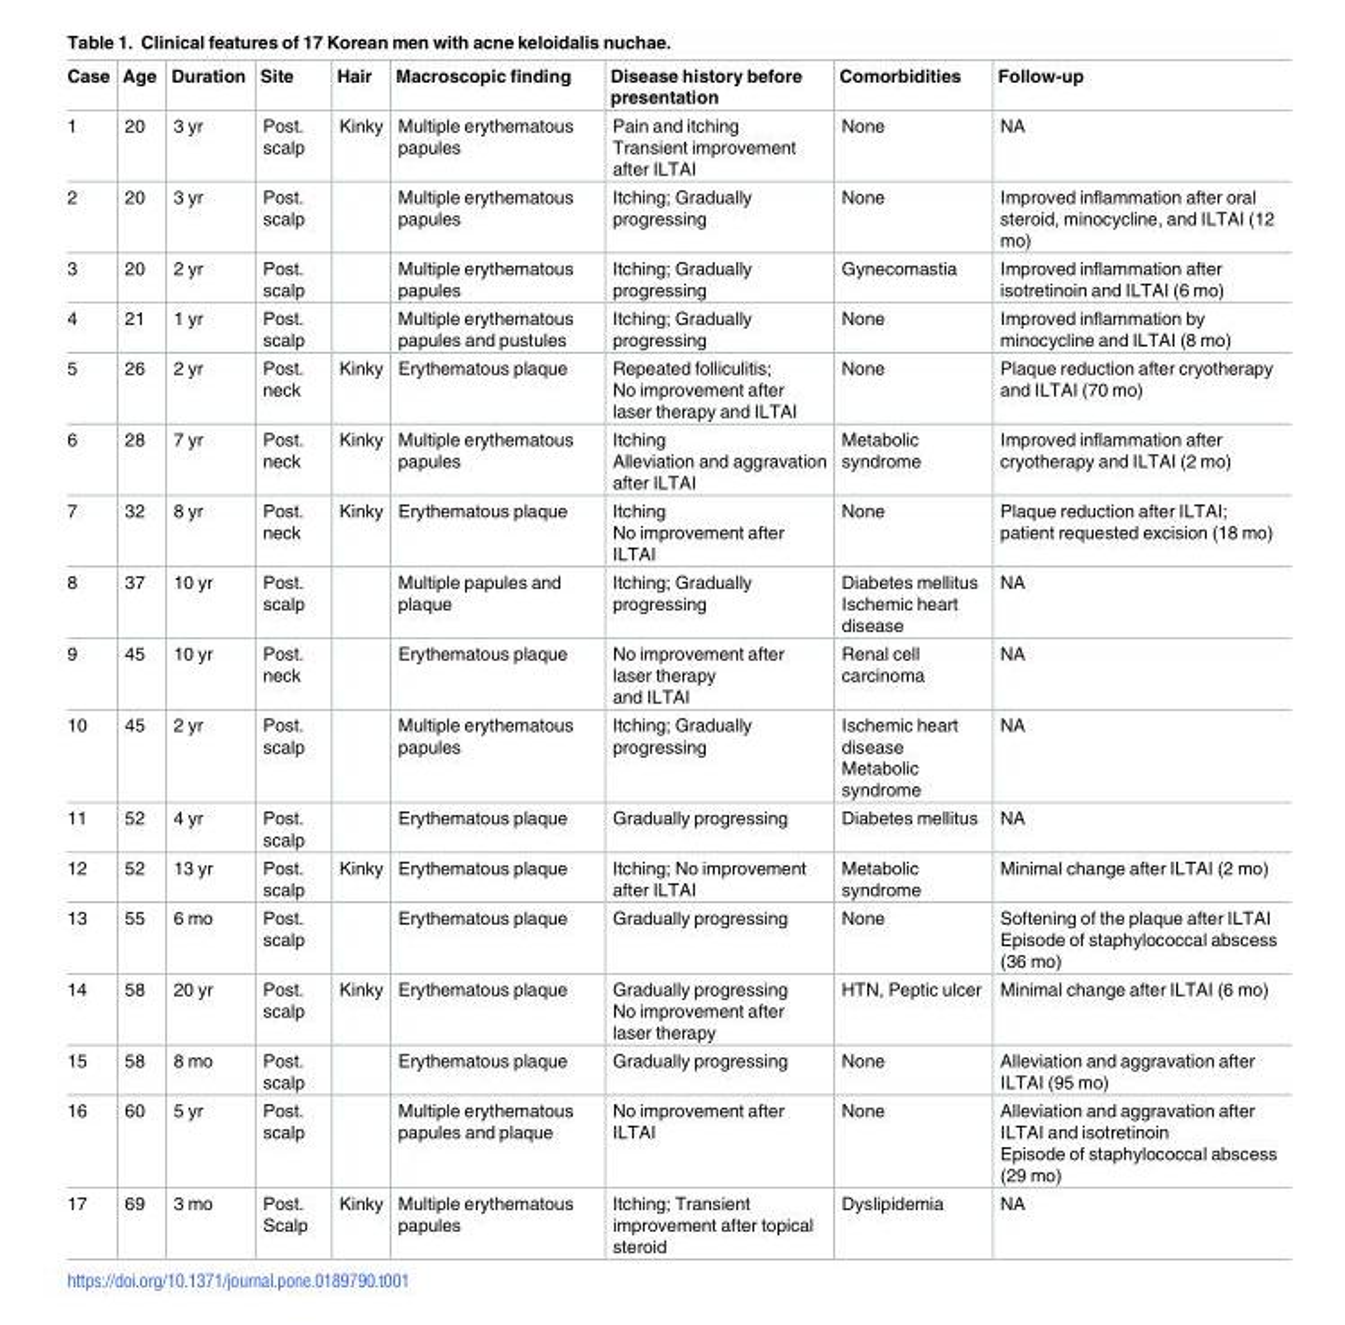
<table><thead><tr><td>Case</td><td>Age</td><td>Duration</td><td>Site</td><td>Hair</td><td>Macroscopic finding</td><td>Disease history before presentation</td><td>Comorbidities</td><td>Follow-up</td></tr></thead><tbody><tr><td>1</td><td>20</td><td>3 yr</td><td>Post. scalp</td><td>Kinky</td><td>Multiple erythematous papules</td><td>Pain and itching Transient improvement after ILTAI</td><td>None</td><td>NA</td></tr><tr><td>2</td><td>20</td><td>3 yr</td><td>Post. scalp</td><td></td><td>Multiple erythematous papules</td><td>Itching; Gradually progressing</td><td>None</td><td>Improved inflammation after oral steroid, minocycline, and ILTAI (12 mo)</td></tr><tr><td>3</td><td>20</td><td>2 yr</td><td>Post. scalp</td><td></td><td>Multiple erythematous papules</td><td>Itching; Gradually progressing</td><td>Gynecomastia</td><td>Improved inflammation after isotretinoin and ILTAI (6 mo)</td></tr><tr><td>4</td><td>21</td><td>1 yr</td><td>Post. scalp</td><td></td><td>Multiple erythematous papules and pustules</td><td>Itching; Gradually progressing</td><td>None</td><td>Improved inflammation by minocycline and ILTAI (8 mo)</td></tr><tr><td>5</td><td>26</td><td>2 yr</td><td>Post. neck</td><td>Kinky</td><td>Erythematous plaque</td><td>Repeated folliculitis; No improvement after laser therapy and ILTAI</td><td>None</td><td>Plaque reduction after cryotherapy and ILTAI (70 mo)</td></tr><tr><td>6</td><td>28</td><td>7 yr</td><td>Post. neck</td><td>Kinky</td><td>Multiple erythematous papules</td><td>Itching Alleviation and aggravation after ILTAI</td><td>Metabolic syndrome</td><td>Improved inflammation after cryotherapy and ILTAI (2 mo)</td></tr><tr><td>7</td><td>32</td><td>8 yr</td><td>Post. neck</td><td>Kinky</td><td>Erythematous plaque</td><td>Itching No improvement after ILTAI</td><td>None</td><td>Plaque reduction after ILTAI; patient requested excision (18 mo)</td></tr><tr><td>8</td><td>37</td><td>10 yr</td><td>Post. scalp</td><td></td><td>Multiple papules and plaque</td><td>Itching; Gradually progressing</td><td>Diabetes mellitus Ischemic heart disease</td><td>NA</td></tr><tr><td>9</td><td>45</td><td>10 yr</td><td>Post. neck</td><td></td><td>Erythematous plaque</td><td>No improvement after laser therapy and ILTAI</td><td>Renal cell carcinoma</td><td>NA</td></tr><tr><td>10</td><td>45</td><td>2 yr</td><td>Post. scalp</td><td></td><td>Multiple erythematous papules</td><td>Itching; Gradually progressing</td><td>Ischemic heart disease Metabolic syndrome</td><td>NA</td></tr><tr><td>11</td><td>52</td><td>4 yr</td><td>Post. scalp</td><td></td><td>Erythematous plaque</td><td>Gradually progressing</td><td>Diabetes mellitus</td><td>NA</td></tr><tr><td>12</td><td>52</td><td>13 yr</td><td>Post. scalp</td><td>Kinky</td><td>Erythematous plaque</td><td>Itching; No improvement after ILTAI</td><td>Metabolic syndrome</td><td>Minimal change after ILTAI (2 mo)</td></tr><tr><td>13</td><td>55</td><td>6 mo</td><td>Post. scalp</td><td></td><td>Erythematous plaque</td><td>Gradually progressing</td><td>None</td><td>Softening of the plaque after ILTAI Episode of staphylococcal abscess (36 mo)</td></tr><tr><td>14</td><td>58</td><td>20 yr</td><td>Post. scalp</td><td>Kinky</td><td>Erythematous plaque</td><td>Gradually progressing No improvement after laser therapy</td><td>HTN, Peptic ulcer</td><td>Minimal change after ILTAI (6 mo)</td></tr><tr><td>15</td><td>58</td><td>8 mo</td><td>Post. scalp</td><td></td><td>Erythematous plaque</td><td>Gradually progressing</td><td>None</td><td>Alleviation and aggravation after ILTAI (95 mo)</td></tr><tr><td>16</td><td>60</td><td>5 yr</td><td>Post. scalp</td><td></td><td>Multiple erythematous papules and plaque</td><td>No improvement after ILTAI</td><td>None</td><td>Alleviation and aggravation after ILTAI and isotretinoin Episode of staphylococcal abscess (29 mo)</td></tr><tr><td>17</td><td>69</td><td>3 mo</td><td>Post. Scalp</td><td>Kinky</td><td>Multiple erythematous papules</td><td>Itching; Transient improvement after topical steroid</td><td>Dyslipidemia</td><td>NA</td></tr></tbody></table>